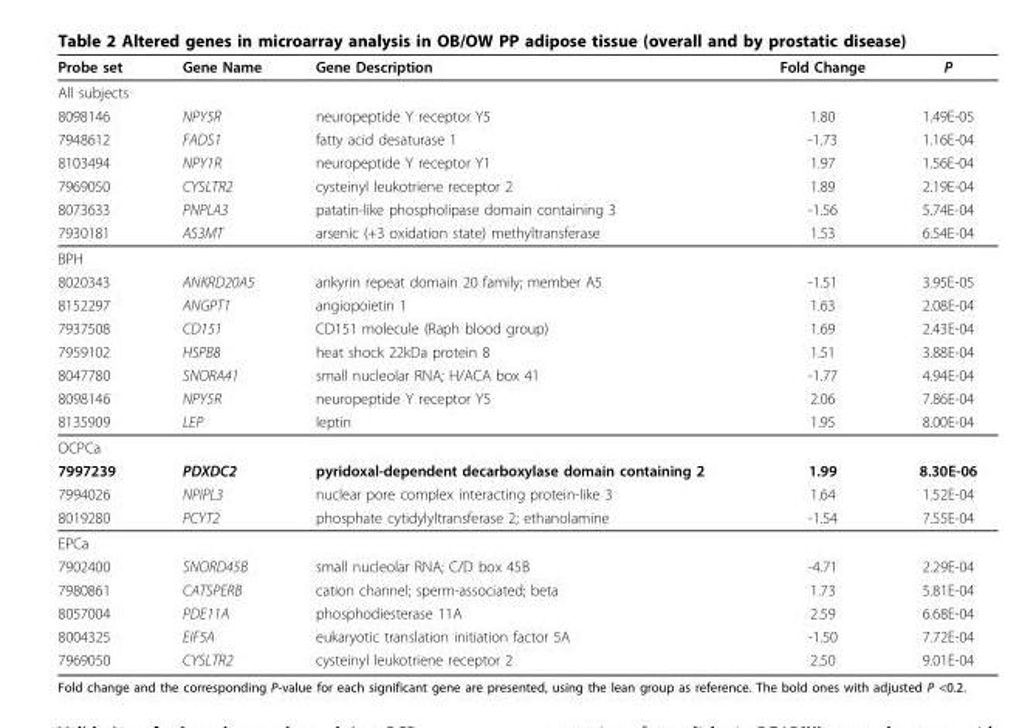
<table><thead><tr><td>Probe set</td><td>Gene Name</td><td>Gene Description</td><td>Fold Change</td><td>P</td></tr></thead><tbody><tr><td colspan="5">All subjects</td></tr><tr><td>8098146</td><td>NPY5R</td><td>neuropeptide Y receptor Y5</td><td>1.80</td><td>1.49E-05</td></tr><tr><td>7948612</td><td>FADS1</td><td>fatty acid desaturase 1</td><td>-1.73</td><td>1.16E-04</td></tr><tr><td>8103494</td><td>NPY1R</td><td>neuropeptide Y receptor Y1</td><td>1.97</td><td>1.56E-04</td></tr><tr><td>7969050</td><td>CYSLTR2</td><td>cysteinyl leukotriene receptor 2</td><td>1.89</td><td>2.19E-04</td></tr><tr><td>8073633</td><td>PNPLA3</td><td>patatin-like phospholipase domain containing 3</td><td>-1.56</td><td>5.74E-04</td></tr><tr><td>7930181</td><td>AS3MT</td><td>arsenic (+3 oxidation state) methyltransferase</td><td>1.53</td><td>6.54E-04</td></tr><tr><td colspan="5">BPH</td></tr><tr><td>8020343</td><td>ANKRD20A5</td><td>ankyrin repeat domain 20 family; member A5</td><td>-1.51</td><td>3.95E-05</td></tr><tr><td>8152297</td><td>ANGPT1</td><td>angiopoietin 1</td><td>1.63</td><td>2.08E-04</td></tr><tr><td>7937508</td><td>CD151</td><td>CD151 molecule (Raph blood group)</td><td>1.69</td><td>2.43E-04</td></tr><tr><td>7959102</td><td>HSPB8</td><td>heat shock 22kDa protein 8</td><td>1.51</td><td>3.88E-04</td></tr><tr><td>8047780</td><td>SNORA41</td><td>small nucleolar RNA; H/ACA box 41</td><td>-1.77</td><td>4.94E-04</td></tr><tr><td>8098146</td><td>NPY5R</td><td>neuropeptide Y receptor Y5</td><td>2.06</td><td>7.86E-04</td></tr><tr><td>8135909</td><td>LEP</td><td>leptin</td><td>1.95</td><td>8.00E-04</td></tr><tr><td colspan="5">OCPCa</td></tr><tr><td>7997239</td><td>PDXDC2</td><td>pyridoxal-dependent decarboxylase domain containing 2</td><td>1.99</td><td>8.30E-06</td></tr><tr><td>7994026</td><td>NPIPL3</td><td>nuclear pore complex interacting protein-like 3</td><td>1.64</td><td>1.52E-04</td></tr><tr><td>8019280</td><td>PCYT2</td><td>phosphate cytidylyltransferase 2; ethanolamine</td><td>-1.54</td><td>7.55E-04</td></tr><tr><td colspan="5">EPCa</td></tr><tr><td>7902400</td><td>SNORD45B</td><td>small nucleolar RNA; C/D box 45B</td><td>-4.71</td><td>2.29E-04</td></tr><tr><td>7980861</td><td>CATSPERB</td><td>cation channel; sperm-associated; beta</td><td>1.73</td><td>5.81E-04</td></tr><tr><td>8057004</td><td>PDE11A</td><td>phosphodiesterase 11A</td><td>2.59</td><td>6.68E-04</td></tr><tr><td>8004325</td><td>EIF5A</td><td>eukaryotic translation initiation factor 5A</td><td>-1.50</td><td>7.72E-04</td></tr><tr><td>7969050</td><td>CYSLTR2</td><td>cysteinyl leukotriene receptor 2</td><td>2.50</td><td>9.01E-04</td></tr></tbody></table>